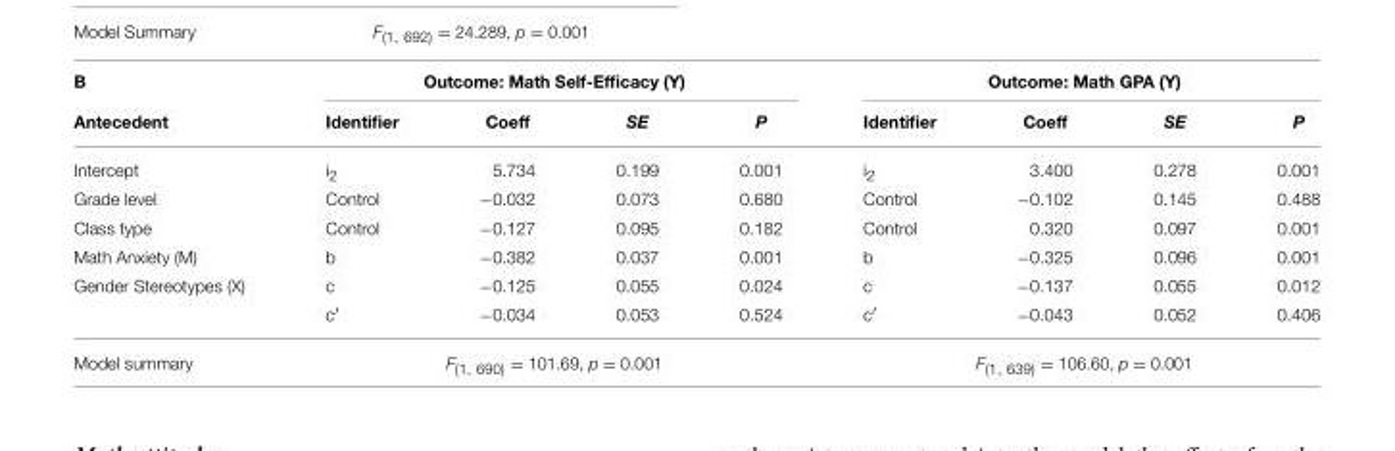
<table><thead><tr><td rowspan="2">B Antecedent</td><td colspan="4">Outcome: Math Self-Efficacy (Y)</td><td colspan="4">Outcome: Math GPA (Y)</td></tr><tr><td>Identifier</td><td>Coeff</td><td>SE</td><td>P</td><td>Identifier</td><td>Coeff</td><td>SE</td><td>P</td></tr></thead><tbody><tr><td>Intercept</td><td>i<sub>2</sub></td><td>5.734</td><td>0.199</td><td>0.001</td><td>i<sub>2</sub></td><td>3.400</td><td>0.278</td><td>0.001</td></tr><tr><td>Grade level</td><td>Control</td><td>−0.032</td><td>0.073</td><td>0.680</td><td>Control</td><td>−0.102</td><td>0.145</td><td>0.488</td></tr><tr><td>Class type</td><td>Control</td><td>−0.127</td><td>0.095</td><td>0.182</td><td>Control</td><td>0.320</td><td>0.097</td><td>0.001</td></tr><tr><td>Math Anxiety (M)</td><td>b</td><td>−0.382</td><td>0.037</td><td>0.001</td><td>b</td><td>−0.325</td><td>0.096</td><td>0.001</td></tr><tr><td rowspan="2">Gender Stereotypes (X)</td><td>c</td><td>−0.125</td><td>0.055</td><td>0.024</td><td>c</td><td>−0.137</td><td>0.055</td><td>0.012</td></tr><tr><td>c′</td><td>−0.034</td><td>0.053</td><td>0.524</td><td>c′</td><td>−0.043</td><td>0.052</td><td>0.406</td></tr><tr><td>Model summary</td><td colspan="4">F<sub>(1, 690)</sub> = 101.69, p = 0.001</td><td colspan="4">F<sub>(1, 639)</sub> = 106.60, p = 0.001</td></tr></tbody></table>